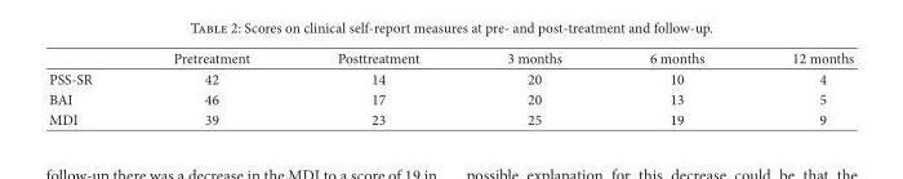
<table><thead><tr><td></td><td>Pretreatment</td><td>Posttreatment</td><td>3 months</td><td>6 months</td><td>12 months</td></tr></thead><tbody><tr><td>PSS-SR</td><td>42</td><td>14</td><td>20</td><td>10</td><td>4</td></tr><tr><td>BAI</td><td>46</td><td>17</td><td>20</td><td>13</td><td>5</td></tr><tr><td>MDI</td><td>39</td><td>23</td><td>25</td><td>19</td><td>9</td></tr></tbody></table>